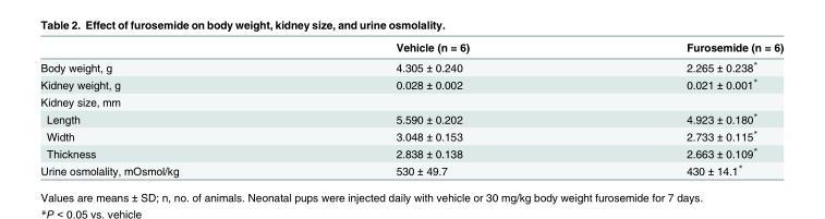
<table><thead><tr><td></td><td>Vehicle (n = 6)</td><td>Furosemide (n = 6)</td></tr></thead><tbody><tr><td>Body weight, g</td><td>4.305 ± 0.240</td><td>2.265 ± 0.238*</td></tr><tr><td>Kidney weight, g</td><td>0.028 ± 0.002</td><td>0.021 ± 0.001*</td></tr><tr><td colspan="3">Kidney size, mm</td></tr><tr><td>Length</td><td>5.590 ± 0.202</td><td>4.923 ± 0.180*</td></tr><tr><td>Width</td><td>3.048 ± 0.153</td><td>2.733 ± 0.115*</td></tr><tr><td>Thickness</td><td>2.838 ± 0.138</td><td>2.663 ± 0.109*</td></tr><tr><td>Urine osmolality, mOsmol/kg</td><td>530 ± 49.7</td><td>430 ± 14.1*</td></tr></tbody></table>